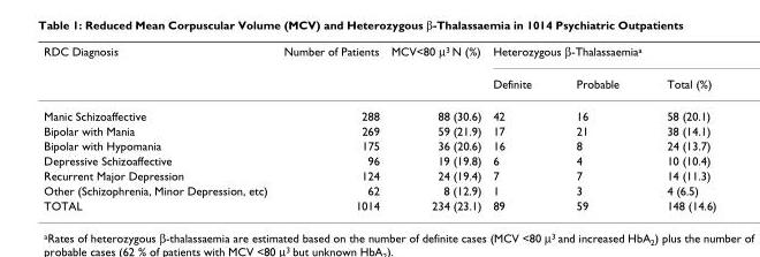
<table><thead><tr><td rowspan="2">RDC Diagnosis</td><td rowspan="2">Number of Patients</td><td rowspan="2">MCV&lt;80 µ<sup>3</sup> N (%)</td><td colspan="3">Heterozygous β-Thalassaemia<sup>a</sup></td></tr><tr><td>Definite</td><td>Probable</td><td>Total (%)</td></tr></thead><tbody><tr><td>Manic Schizoaffective</td><td>288</td><td>88 (30.6)</td><td>42</td><td>16</td><td>58 (20.1)</td></tr><tr><td>Bipolar with Mania</td><td>269</td><td>59 (21.9)</td><td>17</td><td>21</td><td>38 (14.1)</td></tr><tr><td>Bipolar with Hypomania</td><td>175</td><td>36 (20.6)</td><td>16</td><td>8</td><td>24 (13.7)</td></tr><tr><td>Depressive Schizoaffective</td><td>96</td><td>19 (19.8)</td><td>6</td><td>4</td><td>10 (10.4)</td></tr><tr><td>Recurrent Major Depression</td><td>124</td><td>24 (19.4)</td><td>7</td><td>7</td><td>14 (11.3)</td></tr><tr><td>Other (Schizophrenia, Minor Depression, etc)</td><td>62</td><td>8 (12.9)</td><td>1</td><td>3</td><td>4 (6.5)</td></tr><tr><td>TOTAL</td><td>1014</td><td>234 (23.1)</td><td>89</td><td>59</td><td>148 (14.6)</td></tr></tbody></table>